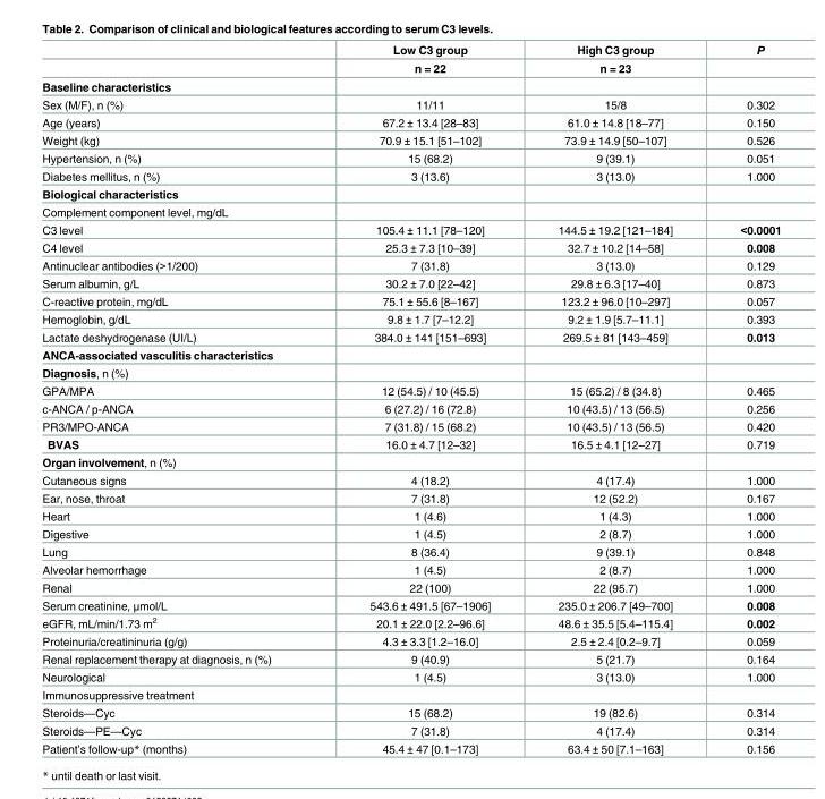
<table><thead><tr><td rowspan="2"></td><td rowspan="2">Low C3 group n = 22</td><td rowspan="2">High C3 group n = 23</td><td rowspan="2">P</td></tr><tr></tr></thead><tbody><tr><td colspan="4">Baseline characteristics</td></tr><tr><td>Sex (M/F), n (%)</td><td>11/11</td><td>15/8</td><td>0.302</td></tr><tr><td>Age (years)</td><td>67.2 ± 13.4 [28–83]</td><td>61.0 ± 14.8 [18–77]</td><td>0.150</td></tr><tr><td>Weight (kg)</td><td>70.9 ± 15.1 [51–102]</td><td>73.9 ± 14.9 [50–107]</td><td>0.526</td></tr><tr><td>Hypertension, n (%)</td><td>15 (68.2)</td><td>9 (39.1)</td><td>0.051</td></tr><tr><td>Diabetes mellitus, n (%)</td><td>3 (13.6)</td><td>3 (13.0)</td><td>1.000</td></tr><tr><td colspan="4">Biological characteristics</td></tr><tr><td colspan="4">Complement component level, mg/dL</td></tr><tr><td>C3 level</td><td>105.4 ± 11.1 [78–120]</td><td>144.5 ± 19.2 [121–184]</td><td>&lt;0.0001</td></tr><tr><td>C4 level</td><td>25.3 ± 7.3 [10–39]</td><td>32.7 ± 10.2 [14–58]</td><td>0.008</td></tr><tr><td>Antinuclear antibodies (&gt;1/200)</td><td>7 (31.8)</td><td>3 (13.0)</td><td>0.129</td></tr><tr><td>Serum albumin, g/L</td><td>30.2 ± 7.0 [22–42]</td><td>29.8 ± 6.3 [17–40]</td><td>0.873</td></tr><tr><td>C-reactive protein, mg/dL</td><td>75.1 ± 55.6 [8–167]</td><td>123.2 ± 96.0 [10–297]</td><td>0.057</td></tr><tr><td>Hemoglobin, g/dL</td><td>9.8 ± 1.7 [7–12.2]</td><td>9.2 ± 1.9 [5.7–11.1]</td><td>0.393</td></tr><tr><td>Lactate deshydrogenase (UI/L)</td><td>384.0 ± 141 [151–693]</td><td>269.5 ± 81 [143–459]</td><td>0.013</td></tr><tr><td colspan="4">ANCA-associated vasculitis characteristics</td></tr><tr><td colspan="4">Diagnosis, n (%)</td></tr><tr><td>GPA/MPA</td><td>12 (54.5) / 10 (45.5)</td><td>15 (65.2) / 8 (34.8)</td><td>0.465</td></tr><tr><td>c-ANCA / p-ANCA</td><td>6 (27.2) / 16 (72.8)</td><td>10 (43.5) / 13 (56.5)</td><td>0.256</td></tr><tr><td>PR3/MPO-ANCA</td><td>7 (31.8) / 15 (68.2)</td><td>10 (43.5) / 13 (56.5)</td><td>0.420</td></tr><tr><td>BVAS</td><td>16.0 ± 4.7 [12–32]</td><td>16.5 ± 4.1 [12–27]</td><td>0.719</td></tr><tr><td colspan="4">Organ involvement, n (%)</td></tr><tr><td>Cutaneous signs</td><td>4 (18.2)</td><td>4 (17.4)</td><td>1.000</td></tr><tr><td>Ear, nose, throat</td><td>7 (31.8)</td><td>12 (52.2)</td><td>0.167</td></tr><tr><td>Heart</td><td>1 (4.6)</td><td>1 (4.3)</td><td>1.000</td></tr><tr><td>Digestive</td><td>1 (4.5)</td><td>2 (8.7)</td><td>1.000</td></tr><tr><td>Lung</td><td>8 (36.4)</td><td>9 (39.1)</td><td>0.848</td></tr><tr><td>Alveolar hemorrhage</td><td>1 (4.5)</td><td>2 (8.7)</td><td>1.000</td></tr><tr><td>Renal</td><td>22 (100)</td><td>22 (95.7)</td><td>1.000</td></tr><tr><td>Serum creatinine, μmol/L</td><td>543.6 ± 491.5 [67–1906]</td><td>235.0 ± 206.7 [49–700]</td><td>0.008</td></tr><tr><td>eGFR, mL/min/1.73 m<sup>2</sup></td><td>20.1 ± 22.0 [2.2–96.6]</td><td>48.6 ± 35.5 [5.4–115.4]</td><td>0.002</td></tr><tr><td>Proteinuria/creatininuria (g/g)</td><td>4.3 ± 3.3 [1.2–16.0]</td><td>2.5 ± 2.4 [0.2–9.7]</td><td>0.059</td></tr><tr><td>Renal replacement therapy at diagnosis, n (%)</td><td>9 (40.9)</td><td>5 (21.7)</td><td>0.164</td></tr><tr><td>Neurological</td><td>1 (4.5)</td><td>3 (13.0)</td><td>1.000</td></tr><tr><td colspan="4">Immunosuppressive treatment</td></tr><tr><td>Steroids—Cyc</td><td>15 (68.2)</td><td>19 (82.6)</td><td>0.314</td></tr><tr><td>Steroids—PE—Cyc</td><td>7 (31.8)</td><td>4 (17.4)</td><td>0.314</td></tr><tr><td>Patient’s follow-up* (months)</td><td>45.4 ± 47 [0.1–173]</td><td>63.4 ± 50 [7.1–163]</td><td>0.156</td></tr></tbody></table>